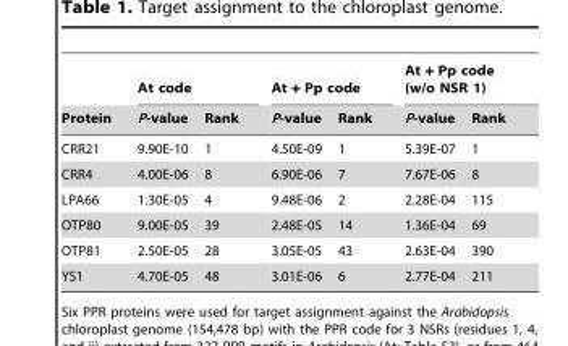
<table><thead><tr><td rowspan="2">Protein</td><td colspan="2">At code</td><td colspan="2">At + Pp code</td><td colspan="2">At + Pp code (w/o NSR 1)</td></tr><tr><td>P-value</td><td>Rank</td><td>P-value</td><td>Rank</td><td>P-value</td><td>Rank</td></tr></thead><tbody><tr><td>CRR21</td><td>9.90E-10</td><td>1</td><td>4.50E-09</td><td>1</td><td>5.39E-07</td><td>1</td></tr><tr><td>CRR4</td><td>4.00E-06</td><td>8</td><td>6.90E-06</td><td>7</td><td>7.67E-06</td><td>8</td></tr><tr><td>LPA66</td><td>1.30E-05</td><td>4</td><td>9.48E-06</td><td>2</td><td>2.28E-04</td><td>115</td></tr><tr><td>OTP80</td><td>9.00E-05</td><td>39</td><td>2.48E-05</td><td>14</td><td>1.36E-04</td><td>69</td></tr><tr><td>OTP81</td><td>2.50E-05</td><td>28</td><td>3.05E-05</td><td>43</td><td>2.63E-04</td><td>390</td></tr><tr><td>YS1</td><td>4.70E-05</td><td>48</td><td>3.01E-06</td><td>6</td><td>2.77E-04</td><td>211</td></tr></tbody></table>